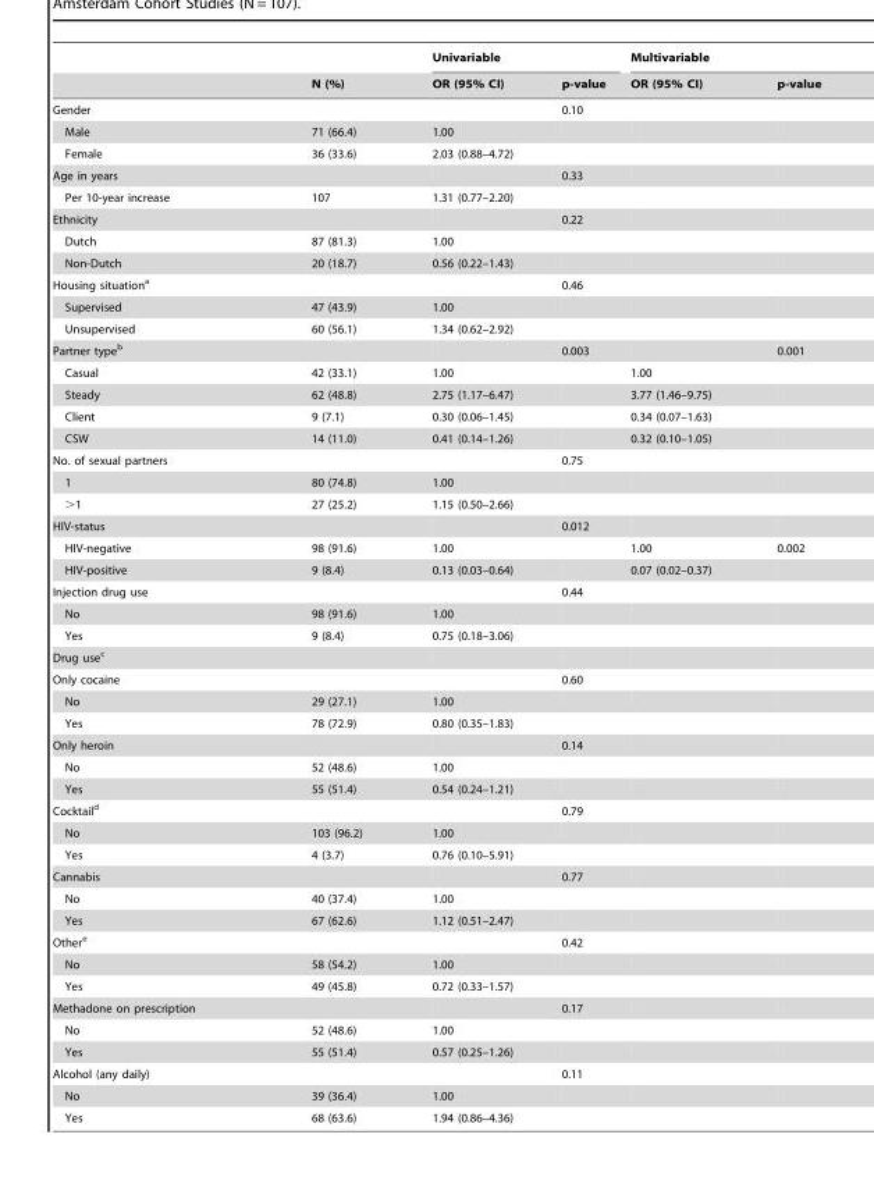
<table><thead><tr><td rowspan="2"></td><td rowspan="2">N (%)</td><td colspan="2">Univariable</td><td colspan="2">Multivariable</td></tr><tr><td>OR (95% CI)</td><td>p-value</td><td>OR (95% CI)</td><td>p-value</td></tr></thead><tbody><tr><td>Gender</td><td></td><td></td><td>0.10</td><td></td><td></td></tr><tr><td>Male</td><td>71 (66.4)</td><td>1.00</td><td></td><td></td><td></td></tr><tr><td>Female</td><td>36 (33.6)</td><td>2.03 (0.88–4.72)</td><td></td><td></td><td></td></tr><tr><td>Age in years</td><td></td><td></td><td>0.33</td><td></td><td></td></tr><tr><td>Per 10-year increase</td><td>107</td><td>1.31 (0.77–2.20)</td><td></td><td></td><td></td></tr><tr><td>Ethnicity</td><td></td><td></td><td>0.22</td><td></td><td></td></tr><tr><td>Dutch</td><td>87 (81.3)</td><td>1.00</td><td></td><td></td><td></td></tr><tr><td>Non-Dutch</td><td>20 (18.7)</td><td>0.56 (0.22–1.43)</td><td></td><td></td><td></td></tr><tr><td>Housing situation<sup>a</sup></td><td></td><td></td><td>0.46</td><td></td><td></td></tr><tr><td>Supervised</td><td>47 (43.9)</td><td>1.00</td><td></td><td></td><td></td></tr><tr><td>Unsupervised</td><td>60 (56.1)</td><td>1.34 (0.62–2.92)</td><td></td><td></td><td></td></tr><tr><td>Partner type<sup>b</sup></td><td></td><td></td><td>0.003</td><td></td><td>0.001</td></tr><tr><td>Casual</td><td>42 (33.1)</td><td>1.00</td><td></td><td>1.00</td><td></td></tr><tr><td>Steady</td><td>62 (48.8)</td><td>2.75 (1.17–6.47)</td><td></td><td>3.77 (1.46–9.75)</td><td></td></tr><tr><td>Client</td><td>9 (7.1)</td><td>0.30 (0.06–1.45)</td><td></td><td>0.34 (0.07–1.63)</td><td></td></tr><tr><td>CSW</td><td>14 (11.0)</td><td>0.41 (0.14–1.26)</td><td></td><td>0.32 (0.10–1.05)</td><td></td></tr><tr><td>No. of sexual partners</td><td></td><td></td><td>0.75</td><td></td><td></td></tr><tr><td>1</td><td>80 (74.8)</td><td>1.00</td><td></td><td></td><td></td></tr><tr><td>&gt;1</td><td>27 (25.2)</td><td>1.15 (0.50–2.66)</td><td></td><td></td><td></td></tr><tr><td>HIV-status</td><td></td><td></td><td>0.012</td><td></td><td></td></tr><tr><td>HIV-negative</td><td>98 (91.6)</td><td>1.00</td><td></td><td>1.00</td><td>0.002</td></tr><tr><td>HIV-positive</td><td>9 (8.4)</td><td>0.13 (0.03–0.64)</td><td></td><td>0.07 (0.02–0.37)</td><td></td></tr><tr><td>Injection drug use</td><td></td><td></td><td>0.44</td><td></td><td></td></tr><tr><td>No</td><td>98 (91.6)</td><td>1.00</td><td></td><td></td><td></td></tr><tr><td>Yes</td><td>9 (8.4)</td><td>0.75 (0.18–3.06)</td><td></td><td></td><td></td></tr><tr><td colspan="6">Drug use<sup>c</sup></td></tr><tr><td>Only cocaine</td><td></td><td></td><td>0.60</td><td></td><td></td></tr><tr><td>No</td><td>29 (27.1)</td><td>1.00</td><td></td><td></td><td></td></tr><tr><td>Yes</td><td>78 (72.9)</td><td>0.80 (0.35–1.83)</td><td></td><td></td><td></td></tr><tr><td>Only heroin</td><td></td><td></td><td>0.14</td><td></td><td></td></tr><tr><td>No</td><td>52 (48.6)</td><td>1.00</td><td></td><td></td><td></td></tr><tr><td>Yes</td><td>55 (51.4)</td><td>0.54 (0.24–1.21)</td><td></td><td></td><td></td></tr><tr><td>Cocktail<sup>d</sup></td><td></td><td></td><td>0.79</td><td></td><td></td></tr><tr><td>No</td><td>103 (96.2)</td><td>1.00</td><td></td><td></td><td></td></tr><tr><td>Yes</td><td>4 (3.7)</td><td>0.76 (0.10–5.91)</td><td></td><td></td><td></td></tr><tr><td>Cannabis</td><td></td><td></td><td>0.77</td><td></td><td></td></tr><tr><td>No</td><td>40 (37.4)</td><td>1.00</td><td></td><td></td><td></td></tr><tr><td>Yes</td><td>67 (62.6)</td><td>1.12 (0.51–2.47)</td><td></td><td></td><td></td></tr><tr><td>Other<sup>e</sup></td><td></td><td></td><td>0.42</td><td></td><td></td></tr><tr><td>No</td><td>58 (54.2)</td><td>1.00</td><td></td><td></td><td></td></tr><tr><td>Yes</td><td>49 (45.8)</td><td>0.72 (0.33–1.57)</td><td></td><td></td><td></td></tr><tr><td>Methadone on prescription</td><td></td><td></td><td>0.17</td><td></td><td></td></tr><tr><td>No</td><td>52 (48.6)</td><td>1.00</td><td></td><td></td><td></td></tr><tr><td>Yes</td><td>55 (51.4)</td><td>0.57 (0.25–1.26)</td><td></td><td></td><td></td></tr><tr><td>Alcohol (any daily)</td><td></td><td></td><td>0.11</td><td></td><td></td></tr><tr><td>No</td><td>39 (36.4)</td><td>1.00</td><td></td><td></td><td></td></tr><tr><td>Yes</td><td>68 (63.6)</td><td>1.94 (0.86–4.36)</td><td></td><td></td><td></td></tr></tbody></table>